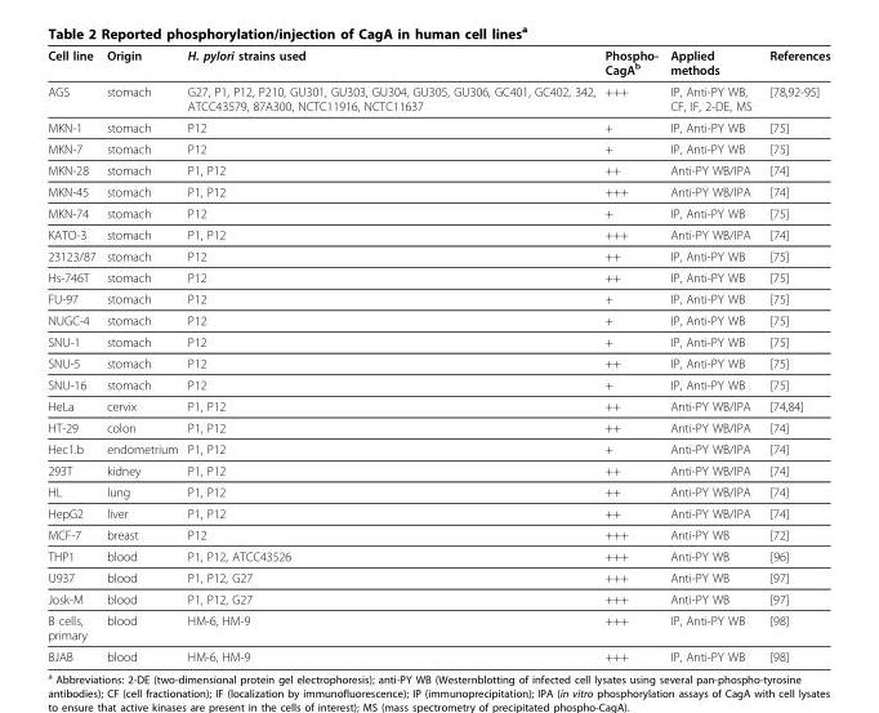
<table><thead><tr><td>Cell line</td><td>Origin</td><td>H. pylori strains used</td><td>Phospho- CagA<sup>b</sup></td><td>Applied methods</td><td>References</td></tr></thead><tbody><tr><td>AGS</td><td>stomach</td><td>G27, P1, P12, P210, GU301, GU303, GU304, GU305, GU306, GC401, GC402, 342, ATCC43579, 87A300, NCTC11916, NCTC11637</td><td>+++</td><td>IP, Anti-PY WB, CF, IF, 2-DE, MS</td><td>[78,92-95]</td></tr><tr><td>MKN-1</td><td>stomach</td><td>P12</td><td>+</td><td>IP, Anti-PY WB</td><td>[75]</td></tr><tr><td>MKN-7</td><td>stomach</td><td>P12</td><td>+</td><td>IP, Anti-PY WB</td><td>[75]</td></tr><tr><td>MKN-28</td><td>stomach</td><td>P1, P12</td><td>++</td><td>Anti-PY WB/IPA</td><td>[74]</td></tr><tr><td>MKN-45</td><td>stomach</td><td>P1, P12</td><td>+++</td><td>Anti-PY WB/IPA</td><td>[74]</td></tr><tr><td>MKN-74</td><td>stomach</td><td>P12</td><td>+</td><td>IP, Anti-PY WB</td><td>[75]</td></tr><tr><td>KATO-3</td><td>stomach</td><td>P1, P12</td><td>+++</td><td>Anti-PY WB/IPA</td><td>[74]</td></tr><tr><td>23123/87</td><td>stomach</td><td>P12</td><td>++</td><td>IP, Anti-PY WB</td><td>[75]</td></tr><tr><td>Hs-746T</td><td>stomach</td><td>P12</td><td>++</td><td>IP, Anti-PY WB</td><td>[75]</td></tr><tr><td>FU-97</td><td>stomach</td><td>P12</td><td>+</td><td>IP, Anti-PY WB</td><td>[75]</td></tr><tr><td>NUGC-4</td><td>stomach</td><td>P12</td><td>+</td><td>IP, Anti-PY WB</td><td>[75]</td></tr><tr><td>SNU-1</td><td>stomach</td><td>P12</td><td>+</td><td>IP, Anti-PY WB</td><td>[75]</td></tr><tr><td>SNU-5</td><td>stomach</td><td>P12</td><td>++</td><td>IP, Anti-PY WB</td><td>[75]</td></tr><tr><td>SNU-16</td><td>stomach</td><td>P12</td><td>+</td><td>IP, Anti-PY WB</td><td>[75]</td></tr><tr><td>HeLa</td><td>cervix</td><td>P1, P12</td><td>++</td><td>Anti-PY WB/IPA</td><td>[74,84]</td></tr><tr><td>HT-29</td><td>colon</td><td>P1, P12</td><td>++</td><td>Anti-PY WB/IPA</td><td>[74]</td></tr><tr><td>Hec1.b</td><td>endometrium</td><td>P1, P12</td><td>+</td><td>Anti-PY WB/IPA</td><td>[74]</td></tr><tr><td>293T</td><td>kidney</td><td>P1, P12</td><td>++</td><td>Anti-PY WB/IPA</td><td>[74]</td></tr><tr><td>HL</td><td>lung</td><td>P1, P12</td><td>++</td><td>Anti-PY WB/IPA</td><td>[74]</td></tr><tr><td>HepG2</td><td>liver</td><td>P1, P12</td><td>++</td><td>Anti-PY WB/IPA</td><td>[74]</td></tr><tr><td>MCF-7</td><td>breast</td><td>P12</td><td>+++</td><td>Anti-PY WB</td><td>[72]</td></tr><tr><td>THP1</td><td>blood</td><td>P1, P12, ATCC43526</td><td>+++</td><td>Anti-PY WB</td><td>[96]</td></tr><tr><td>U937</td><td>blood</td><td>P1, P12, G27</td><td>+++</td><td>Anti-PY WB</td><td>[97]</td></tr><tr><td>Josk-M</td><td>blood</td><td>P1, P12, G27</td><td>+++</td><td>Anti-PY WB</td><td>[97]</td></tr><tr><td>B cells, primary</td><td>blood</td><td>HM-6, HM-9</td><td>+++</td><td>IP, Anti-PY WB</td><td>[98]</td></tr><tr><td>BJAB</td><td>blood</td><td>HM-6, HM-9</td><td>+++</td><td>IP, Anti-PY WB</td><td>[98]</td></tr></tbody></table>